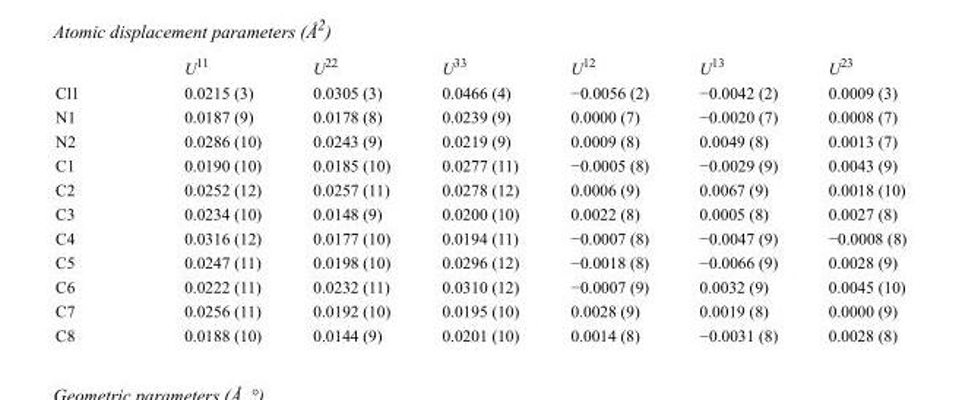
<table><thead><tr><td></td><td>U<sup>11</sup></td><td>U<sup>22</sup></td><td>U<sup>33</sup></td><td>U<sup>12</sup></td><td>U<sup>13</sup></td><td>U<sup>23</sup></td></tr></thead><tbody><tr><td>Cl1</td><td>0.0215 (3)</td><td>0.0305 (3)</td><td>0.0466 (4)</td><td>−0.0056 (2)</td><td>−0.0042 (2)</td><td>0.0009 (3)</td></tr><tr><td>N1</td><td>0.0187 (9)</td><td>0.0178 (8)</td><td>0.0239 (9)</td><td>0.0000 (7)</td><td>−0.0020 (7)</td><td>0.0008 (7)</td></tr><tr><td>N2</td><td>0.0286 (10)</td><td>0.0243 (9)</td><td>0.0219 (9)</td><td>0.0009 (8)</td><td>0.0049 (8)</td><td>0.0013 (7)</td></tr><tr><td>C1</td><td>0.0190 (10)</td><td>0.0185 (10)</td><td>0.0277 (11)</td><td>−0.0005 (8)</td><td>−0.0029 (9)</td><td>0.0043 (9)</td></tr><tr><td>C2</td><td>0.0252 (12)</td><td>0.0257 (11)</td><td>0.0278 (12)</td><td>0.0006 (9)</td><td>0.0067 (9)</td><td>0.0018 (10)</td></tr><tr><td>C3</td><td>0.0234 (10)</td><td>0.0148 (9)</td><td>0.0200 (10)</td><td>0.0022 (8)</td><td>0.0005 (8)</td><td>0.0027 (8)</td></tr><tr><td>C4</td><td>0.0316 (12)</td><td>0.0177 (10)</td><td>0.0194 (11)</td><td>−0.0007 (8)</td><td>−0.0047 (9)</td><td>−0.0008 (8)</td></tr><tr><td>C5</td><td>0.0247 (11)</td><td>0.0198 (10)</td><td>0.0296 (12)</td><td>−0.0018 (8)</td><td>−0.0066 (9)</td><td>0.0028 (9)</td></tr><tr><td>C6</td><td>0.0222 (11)</td><td>0.0232 (11)</td><td>0.0310 (12)</td><td>−0.0007 (9)</td><td>0.0032 (9)</td><td>0.0045 (10)</td></tr><tr><td>C7</td><td>0.0256 (11)</td><td>0.0192 (10)</td><td>0.0195 (10)</td><td>0.0028 (9)</td><td>0.0019 (8)</td><td>0.0000 (9)</td></tr><tr><td>C8</td><td>0.0188 (10)</td><td>0.0144 (9)</td><td>0.0201 (10)</td><td>0.0014 (8)</td><td>−0.0031 (8)</td><td>0.0028 (8)</td></tr></tbody></table>